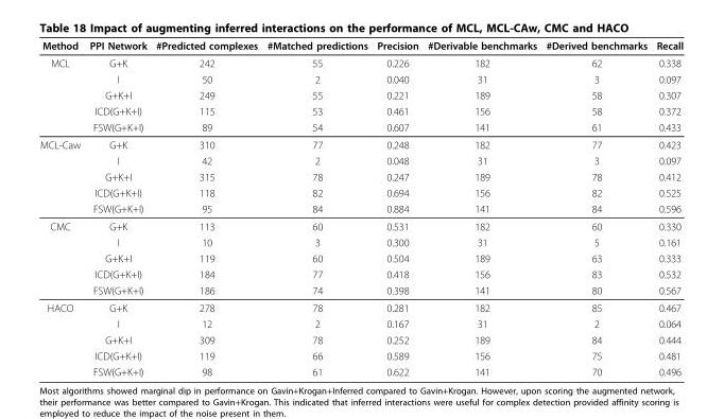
<table><thead><tr><td>Method</td><td>PPI Network</td><td>#Predicted complexes</td><td>#Matched predictions</td><td>Precision</td><td>#Derivable benchmarks</td><td>#Derived benchmarks</td><td>Recall</td></tr></thead><tbody><tr><td rowspan="5">MCL</td><td>G+K</td><td>242</td><td>55</td><td>0.226</td><td>182</td><td>62</td><td>0.338</td></tr><tr><td>I</td><td>50</td><td>2</td><td>0.040</td><td>31</td><td>3</td><td>0.097</td></tr><tr><td>G+K+I</td><td>249</td><td>55</td><td>0.221</td><td>189</td><td>58</td><td>0.307</td></tr><tr><td>ICD(G+K+I)</td><td>115</td><td>53</td><td>0.461</td><td>156</td><td>58</td><td>0.372</td></tr><tr><td>FSW(G+K+I)</td><td>89</td><td>54</td><td>0.607</td><td>141</td><td>61</td><td>0.433</td></tr><tr><td rowspan="5">MCL-Caw</td><td>G+K</td><td>310</td><td>77</td><td>0.248</td><td>182</td><td>77</td><td>0.423</td></tr><tr><td>I</td><td>42</td><td>2</td><td>0.048</td><td>31</td><td>3</td><td>0.097</td></tr><tr><td>G+K+I</td><td>315</td><td>78</td><td>0.247</td><td>189</td><td>78</td><td>0.412</td></tr><tr><td>ICD(G+K+I)</td><td>118</td><td>82</td><td>0.694</td><td>156</td><td>82</td><td>0.525</td></tr><tr><td>FSW(G+K+I)</td><td>95</td><td>84</td><td>0.884</td><td>141</td><td>84</td><td>0.596</td></tr><tr><td rowspan="5">CMC</td><td>G+K</td><td>113</td><td>60</td><td>0.531</td><td>182</td><td>60</td><td>0.330</td></tr><tr><td>I</td><td>10</td><td>3</td><td>0.300</td><td>31</td><td>5</td><td>0.161</td></tr><tr><td>G+K+I</td><td>119</td><td>60</td><td>0.504</td><td>189</td><td>63</td><td>0.333</td></tr><tr><td>ICD(G+K+I)</td><td>184</td><td>77</td><td>0.418</td><td>156</td><td>83</td><td>0.532</td></tr><tr><td>FSW(G+K+I)</td><td>186</td><td>74</td><td>0.398</td><td>141</td><td>80</td><td>0.567</td></tr><tr><td rowspan="5">HACO</td><td>G+K</td><td>278</td><td>78</td><td>0.281</td><td>182</td><td>85</td><td>0.467</td></tr><tr><td>I</td><td>12</td><td>2</td><td>0.167</td><td>31</td><td>2</td><td>0.064</td></tr><tr><td>G+K+I</td><td>309</td><td>78</td><td>0.252</td><td>189</td><td>84</td><td>0.444</td></tr><tr><td>ICD(G+K+I)</td><td>119</td><td>66</td><td>0.589</td><td>156</td><td>75</td><td>0.481</td></tr><tr><td>FSW(G+K+I)</td><td>98</td><td>61</td><td>0.622</td><td>141</td><td>70</td><td>0.496</td></tr></tbody></table>